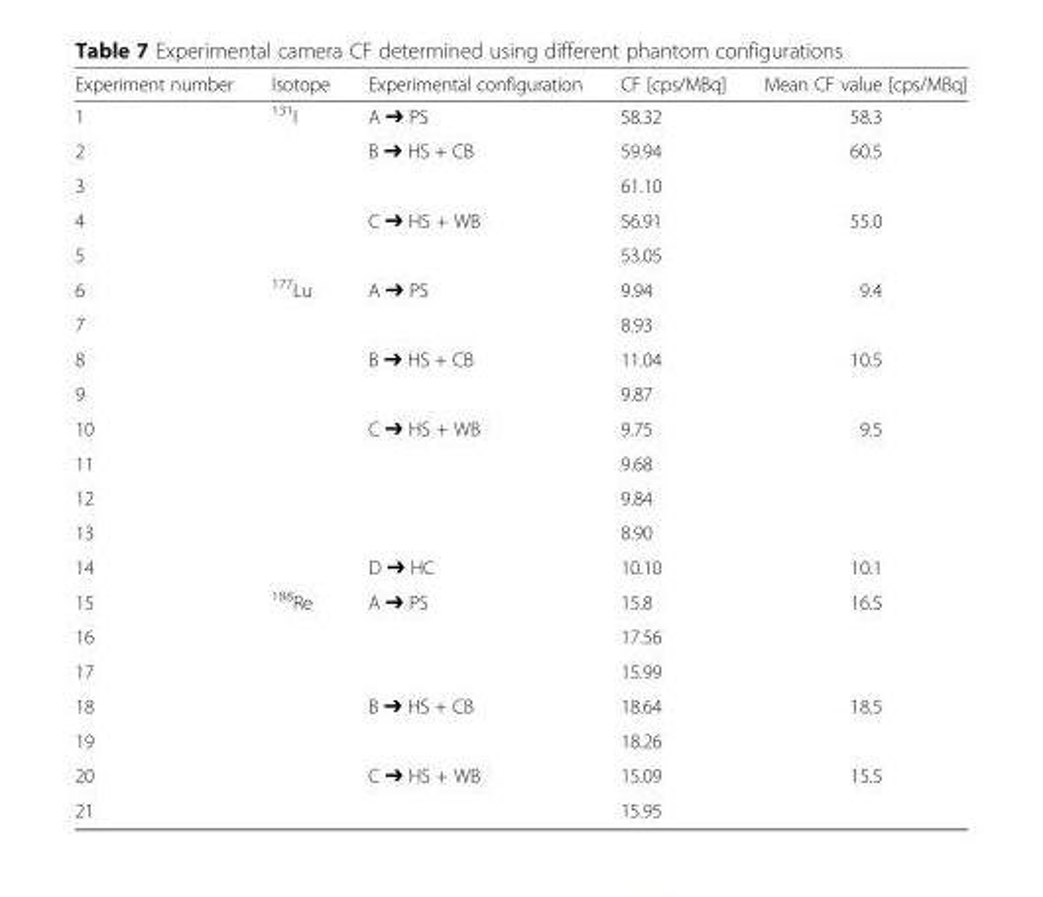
<table><thead><tr><td>Experiment number</td><td>Isotope</td><td>Experimental configuration</td><td>CF [cps/MBq]</td><td>Mean CF value [cps/MBq]</td></tr></thead><tbody><tr><td>1</td><td rowspan="5"><sup>131</sup>I</td><td>A ➔ PS</td><td>58.32</td><td>58.3</td></tr><tr><td>2</td><td rowspan="2">B ➔ HS + CB</td><td>59.94</td><td rowspan="2">60.5</td></tr><tr><td>3</td><td>61.10</td></tr><tr><td>4</td><td rowspan="2">C ➔ HS + WB</td><td>56.91</td><td rowspan="2">55.0</td></tr><tr><td>5</td><td>53.05</td></tr><tr><td>6</td><td rowspan="9"><sup>177</sup>Lu</td><td rowspan="2">A ➔ PS</td><td>9.94</td><td rowspan="2">9.4</td></tr><tr><td>7</td><td>8.93</td></tr><tr><td>8</td><td rowspan="2">B ➔ HS + CB</td><td>11.04</td><td rowspan="2">10.5</td></tr><tr><td>9</td><td>9.87</td></tr><tr><td>10</td><td rowspan="4">C ➔ HS + WB</td><td>9.75</td><td rowspan="4">9.5</td></tr><tr><td>11</td><td>9.68</td></tr><tr><td>12</td><td>9.84</td></tr><tr><td>13</td><td>8.90</td></tr><tr><td>14</td><td>D ➔ HC</td><td>10.10</td><td>10.1</td></tr><tr><td>15</td><td rowspan="7"><sup>188</sup>Re</td><td rowspan="3">A ➔ PS</td><td>15.8</td><td rowspan="3">16.5</td></tr><tr><td>16</td><td>17.56</td></tr><tr><td>17</td><td>15.99</td></tr><tr><td>18</td><td rowspan="2">B ➔ HS + CB</td><td>18.64</td><td rowspan="2">18.5</td></tr><tr><td>19</td><td>18.26</td></tr><tr><td>20</td><td rowspan="2">C ➔ HS + WB</td><td>15.09</td><td rowspan="2">15.5</td></tr><tr><td>21</td><td>15.95</td></tr></tbody></table>